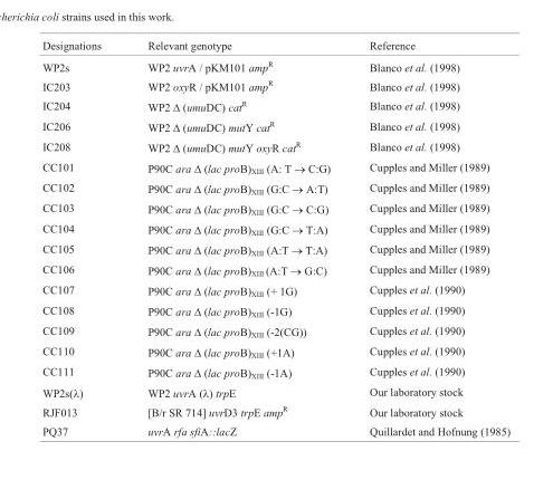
<table><thead><tr><td>Designations</td><td>Relevant genotype</td><td>Reference</td></tr></thead><tbody><tr><td>WP2s</td><td>WP2 uvrA / pKM101 amp<sup>R</sup></td><td>Blanco et al. (1998)</td></tr><tr><td>IC203</td><td>WP2 oxyR / pKM101 amp<sup>R</sup></td><td>Blanco et al. (1998)</td></tr><tr><td>IC204</td><td>WP2 Δ (umuDC) cat<sup>R</sup></td><td>Blanco et al. (1998)</td></tr><tr><td>IC206</td><td>WP2 Δ (umuDC) mutY cat<sup>R</sup></td><td>Blanco et al. (1998)</td></tr><tr><td>IC208</td><td>WP2 Δ (umuDC) mutY oxyR cat<sup>R</sup></td><td>Blanco et al. (1998)</td></tr><tr><td>CC101</td><td>P90C ara Δ (lac proB)<sub>XIII</sub> (A: T → C:G)</td><td>Cupples and Miller (1989)</td></tr><tr><td>CC102</td><td>P90C ara Δ (lac proB)<sub>XIII</sub> (G:C → A:T)</td><td>Cupples and Miller (1989)</td></tr><tr><td>CC103</td><td>P90C ara Δ (lac proB)<sub>XIII</sub> (G:C → C:G)</td><td>Cupples and Miller (1989)</td></tr><tr><td>CC104</td><td>P90C ara Δ (lac proB)<sub>XIII</sub> (G:C → T:A)</td><td>Cupples and Miller (1989)</td></tr><tr><td>CC105</td><td>P90C ara Δ (lac proB)<sub>XIII</sub> (A:T → T:A)</td><td>Cupples and Miller (1989)</td></tr><tr><td>CC106</td><td>P90C ara Δ (lac proB)<sub>XIII</sub> (A:T → G:C)</td><td>Cupples and Miller (1989)</td></tr><tr><td>CC107</td><td>P90C ara Δ (lac proB)<sub>XIII</sub> (+ 1G)</td><td>Cupples et al. (1990)</td></tr><tr><td>CC108</td><td>P90C ara Δ (lac proB)<sub>XIII</sub> (-1G)</td><td>Cupples et al. (1990)</td></tr><tr><td>CC109</td><td>P90C ara Δ (lac proB)<sub>XIII</sub> (-2(CG))</td><td>Cupples et al. (1990)</td></tr><tr><td>CC110</td><td>P90C ara Δ (lac proB)<sub>XIII</sub> (+1A)</td><td>Cupples et al. (1990)</td></tr><tr><td>CC111</td><td>P90C ara Δ (lac proB)<sub>XIII</sub> (-1A)</td><td>Cupples et al. (1990)</td></tr><tr><td>WP2s(λ)</td><td>WP2 uvrA (λ) trpE</td><td>Our laboratory stock</td></tr><tr><td>RJF013</td><td>[B/r SR 714] uvrD3 trpE amp<sup>R</sup></td><td>Our laboratory stock</td></tr><tr><td>PQ37</td><td>uvrA rfa sfiA::lacZ</td><td>Quillardet and Hofnung (1985)</td></tr></tbody></table>